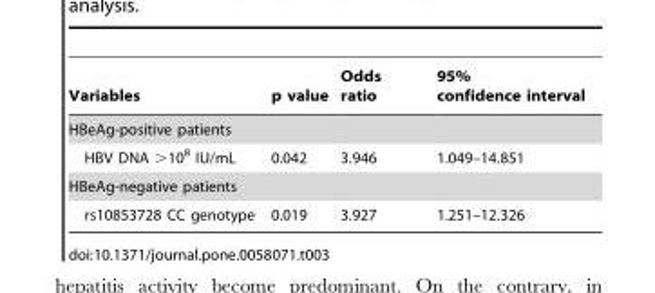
<table><thead><tr><td>Variables</td><td>p value</td><td>Odds ratio</td><td>95% confidence interval</td></tr></thead><tbody><tr><td colspan="4">HBeAg-positive patients</td></tr><tr><td>HBV DNA &gt;10<sup>8</sup> IU/mL</td><td>0.042</td><td>3.946</td><td>1.049–14.851</td></tr><tr><td colspan="4">HBeAg-negative patients</td></tr><tr><td>rs10853728 CC genotype</td><td>0.019</td><td>3.927</td><td>1.251–12.326</td></tr></tbody></table>